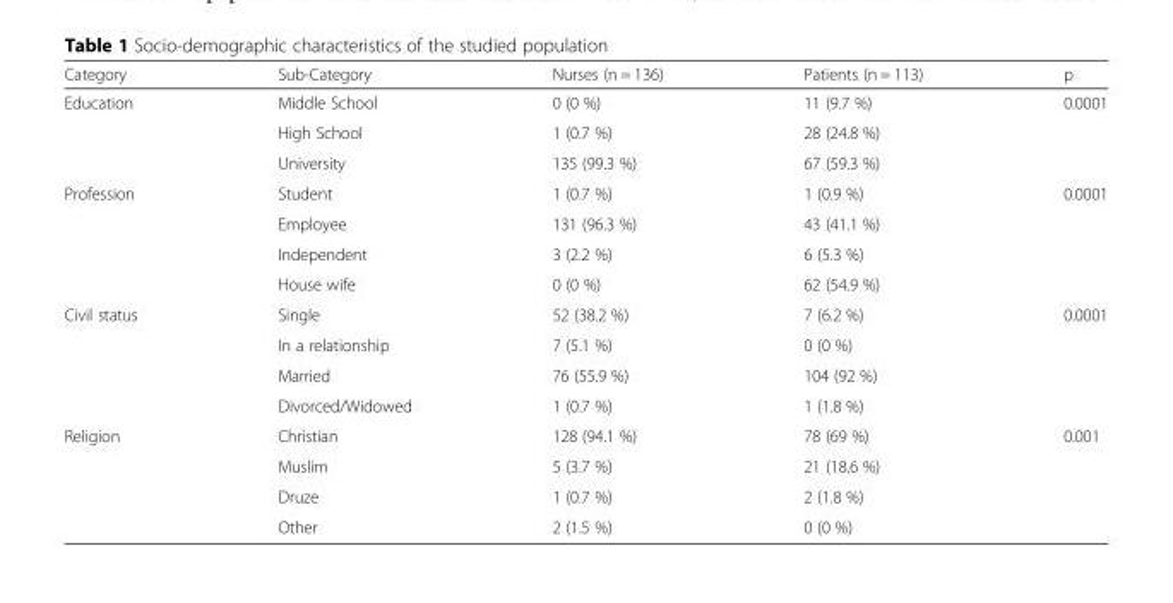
<table><thead><tr><td>Category</td><td>Sub-Category</td><td>Nurses (n = 136)</td><td>Patients (n = 113)</td><td>p</td></tr></thead><tbody><tr><td rowspan="3">Education</td><td>Middle School</td><td>0 (0 %)</td><td>11 (9.7 %)</td><td>0.0001</td></tr><tr><td>High School</td><td>1 (0.7 %)</td><td>28 (24.8 %)</td><td></td></tr><tr><td>University</td><td>135 (99.3 %)</td><td>67 (59.3 %)</td><td></td></tr><tr><td rowspan="4">Profession</td><td>Student</td><td>1 (0.7 %)</td><td>1 (0.9 %)</td><td>0.0001</td></tr><tr><td>Employee</td><td>131 (96.3 %)</td><td>43 (41.1 %)</td><td></td></tr><tr><td>Independent</td><td>3 (2.2 %)</td><td>6 (5.3 %)</td><td></td></tr><tr><td>House wife</td><td>0 (0 %)</td><td>62 (54.9 %)</td><td></td></tr><tr><td rowspan="4">Civil status</td><td>Single</td><td>52 (38.2 %)</td><td>7 (6.2 %)</td><td>0.0001</td></tr><tr><td>In a relationship</td><td>7 (5.1 %)</td><td>0 (0 %)</td><td></td></tr><tr><td>Married</td><td>76 (55.9 %)</td><td>104 (92 %)</td><td></td></tr><tr><td>Divorced/Widowed</td><td>1 (0.7 %)</td><td>1 (1.8 %)</td><td></td></tr><tr><td rowspan="4">Religion</td><td>Christian</td><td>128 (94.1 %)</td><td>78 (69 %)</td><td>0.001</td></tr><tr><td>Muslim</td><td>5 (3.7 %)</td><td>21 (18.6 %)</td><td></td></tr><tr><td>Druze</td><td>1 (0.7 %)</td><td>2 (1.8 %)</td><td></td></tr><tr><td>Other</td><td>2 (1.5 %)</td><td>0 (0 %)</td><td></td></tr></tbody></table>